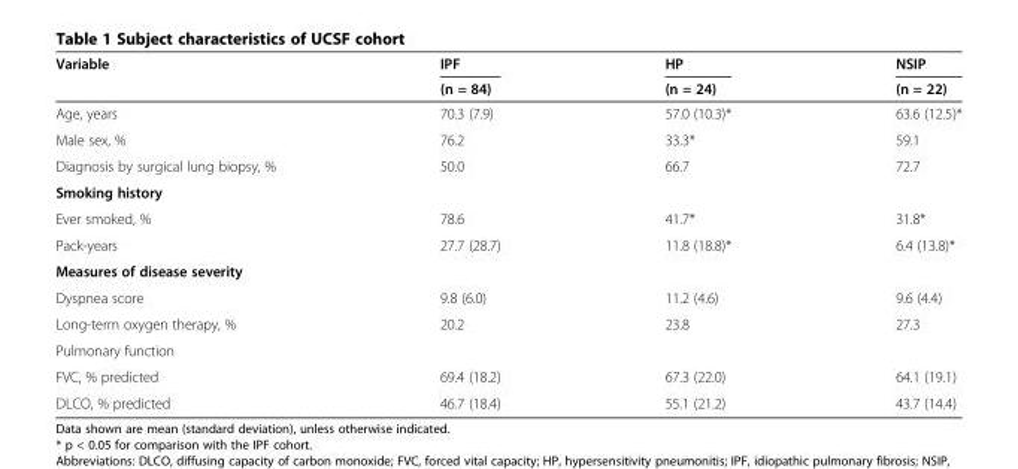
<table><thead><tr><td rowspan="2">Variable</td><td rowspan="2">IPF (n = 84)</td><td rowspan="2">HP (n = 24)</td><td rowspan="2">NSIP (n = 22)</td></tr><tr></tr></thead><tbody><tr><td>Age, years</td><td>70.3 (7.9)</td><td>57.0 (10.3)*</td><td>63.6 (12.5)*</td></tr><tr><td>Male sex, %</td><td>76.2</td><td>33.3*</td><td>59.1</td></tr><tr><td>Diagnosis by surgical lung biopsy, %</td><td>50.0</td><td>66.7</td><td>72.7</td></tr><tr><td colspan="4">Smoking history</td></tr><tr><td>Ever smoked, %</td><td>78.6</td><td>41.7*</td><td>31.8*</td></tr><tr><td>Pack-years</td><td>27.7 (28.7)</td><td>11.8 (18.8)*</td><td>6.4 (13.8)*</td></tr><tr><td colspan="4">Measures of disease severity</td></tr><tr><td>Dyspnea score</td><td>9.8 (6.0)</td><td>11.2 (4.6)</td><td>9.6 (4.4)</td></tr><tr><td>Long-term oxygen therapy, %</td><td>20.2</td><td>23.8</td><td>27.3</td></tr><tr><td colspan="4">Pulmonary function</td></tr><tr><td>FVC, % predicted</td><td>69.4 (18.2)</td><td>67.3 (22.0)</td><td>64.1 (19.1)</td></tr><tr><td>DLCO, % predicted</td><td>46.7 (18.4)</td><td>55.1 (21.2)</td><td>43.7 (14.4)</td></tr></tbody></table>